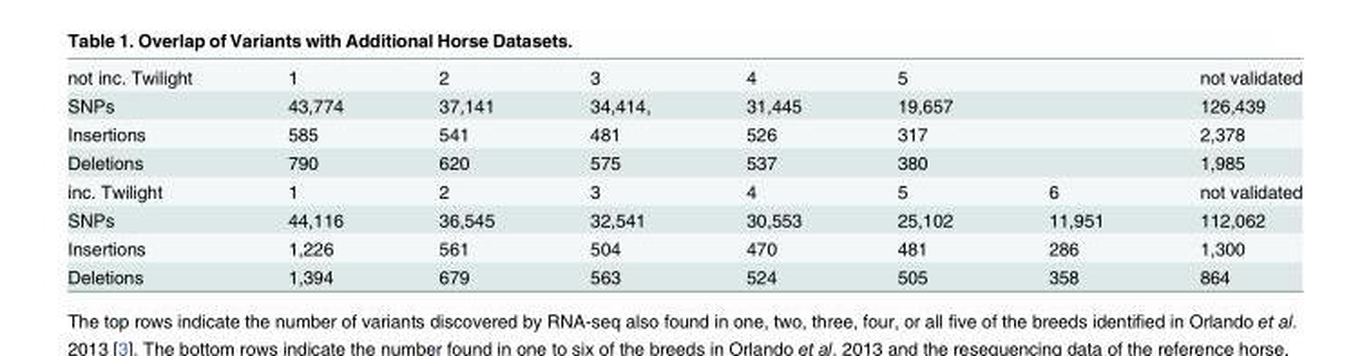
<table><tbody><tr><td>not inc. Twilight</td><td>1</td><td>2</td><td>3</td><td>4</td><td>5</td><td></td><td>not validated</td></tr><tr><td>SNPs</td><td>43,774</td><td>37,141</td><td>34,414,</td><td>31,445</td><td>19,657</td><td></td><td>126,439</td></tr><tr><td>Insertions</td><td>585</td><td>541</td><td>481</td><td>526</td><td>317</td><td></td><td>2,378</td></tr><tr><td>Deletions</td><td>790</td><td>620</td><td>575</td><td>537</td><td>380</td><td></td><td>1,985</td></tr><tr><td>inc. Twilight</td><td>1</td><td>2</td><td>3</td><td>4</td><td>5</td><td>6</td><td>not validated</td></tr><tr><td>SNPs</td><td>44,116</td><td>36,545</td><td>32,541</td><td>30,553</td><td>25,102</td><td>11,951</td><td>112,062</td></tr><tr><td>Insertions</td><td>1,226</td><td>561</td><td>504</td><td>470</td><td>481</td><td>286</td><td>1,300</td></tr><tr><td>Deletions</td><td>1,394</td><td>679</td><td>563</td><td>524</td><td>505</td><td>358</td><td>864</td></tr></tbody></table>